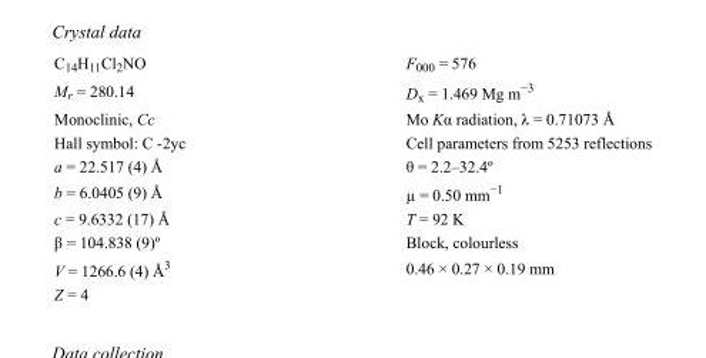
<table><tbody><tr><td>C<sub>14</sub>H<sub>11</sub>Cl<sub>2</sub>NO</td><td>F000 = 576</td></tr><tr><td>M<sub>r</sub> = 280.14</td><td>D<sub>x</sub> = 1.469 Mg m<sup>−3</sup></td></tr><tr><td>Monoclinic, Cc</td><td>Mo Kα radiation, λ = 0.71073 Å</td></tr><tr><td>Hall symbol: C -2yc</td><td>Cell parameters from 5253 reflections</td></tr><tr><td>a = 22.517 (4) Å</td><td>θ = 2.2–32.4º</td></tr><tr><td>b = 6.0405 (9) Å</td><td>µ = 0.50 mm<sup>−1</sup></td></tr><tr><td>c = 9.6332 (17) Å</td><td>T = 92 K</td></tr><tr><td>β = 104.838 (9)º</td><td>Block, colourless</td></tr><tr><td>V = 1266.6 (4) Å<sup>3</sup></td><td>0.46 × 0.27 × 0.19 mm</td></tr><tr><td>Z = 4</td><td></td></tr></tbody></table>